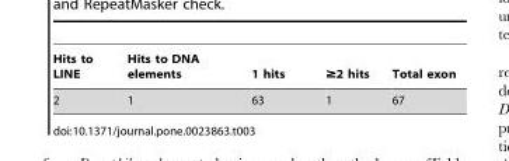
<table><thead><tr><td>Hits to LINE</td><td>Hits to DNA elements</td><td>1 hits</td><td>≥2 hits</td><td>Total exon</td></tr></thead><tbody><tr><td>2</td><td>1</td><td>63</td><td>1</td><td>67</td></tr></tbody></table>